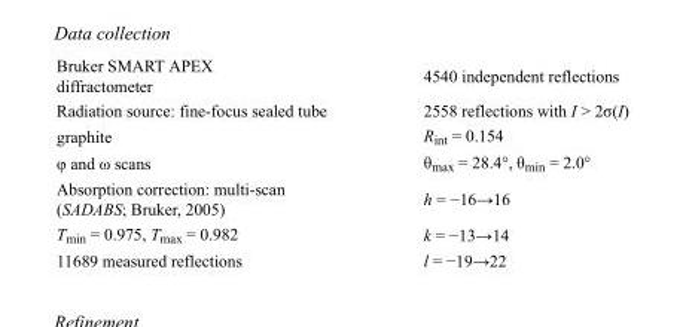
<table><tbody><tr><td>Bruker SMART APEX diffractometer</td><td>4540 independent reflections</td></tr><tr><td>Radiation source: fine-focus sealed tube</td><td>2558 reflections with I &gt; 2σ(I)</td></tr><tr><td>graphite</td><td>R<sub>int</sub> = 0.154</td></tr><tr><td>φ and ω scans</td><td>θ<sub>max</sub> = 28.4°, θ<sub>min</sub> = 2.0°</td></tr><tr><td>Absorption correction: multi-scan (SADABS; Bruker, 2005)</td><td>h = −16→16</td></tr><tr><td>T<sub>min</sub> = 0.975, T<sub>max</sub> = 0.982</td><td>k = −13→14</td></tr><tr><td>11689 measured reflections</td><td>l = −19→22</td></tr></tbody></table>